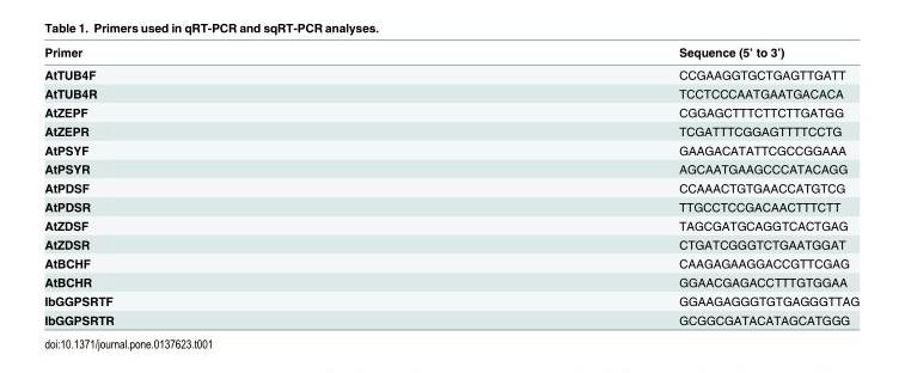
<table><thead><tr><td>Primer</td><td>Sequence (5’ to 3’)</td></tr></thead><tbody><tr><td>AtTUB4F</td><td>CCGAAGGTGCTGAGTTGATT</td></tr><tr><td>AtTUB4R</td><td>TCCTCCCAATGAATGACACA</td></tr><tr><td>AtZEPF</td><td>CGGAGCTTTCTTCTTGATGG</td></tr><tr><td>AtZEPR</td><td>TCGATTTCGGAGTTTTCCTG</td></tr><tr><td>AtPSYF</td><td>GAAGACATATTCGCCGGAAA</td></tr><tr><td>AtPSYR</td><td>AGCAATGAAGCCCATACAGG</td></tr><tr><td>AtPDSF</td><td>CCAAACTGTGAACCATGTCG</td></tr><tr><td>AtPDSR</td><td>TTGCCTCCGACAACTTTCTT</td></tr><tr><td>AtZDSF</td><td>TAGCGATGCAGGTCACTGAG</td></tr><tr><td>AtZDSR</td><td>CTGATCGGGTCTGAATGGAT</td></tr><tr><td>AtBCHF</td><td>CAAGAGAAGGACCGTTCGAG</td></tr><tr><td>AtBCHR</td><td>GGAACGAGACCTTTGTGGAA</td></tr><tr><td>IbGGPSRTF</td><td>GGAAGAGGGTGTGAGGGTTAG</td></tr><tr><td>IbGGPSRTR</td><td>GCGGCGATACATAGCATGGG</td></tr></tbody></table>